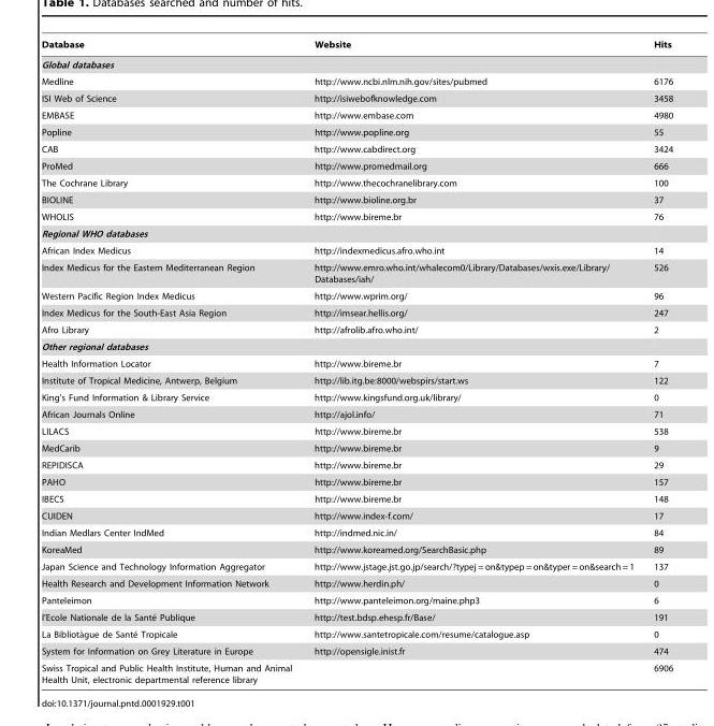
<table><thead><tr><td>Database</td><td>Website</td><td>Hits</td></tr></thead><tbody><tr><td colspan="3">Global databases</td></tr><tr><td>Medline</td><td>http://www.ncbi.nlm.nih.gov/sites/pubmed</td><td>6176</td></tr><tr><td>ISI Web of Science</td><td>http://isiwebofknowledge.com</td><td>3458</td></tr><tr><td>EMBASE</td><td>http://www.embase.com</td><td>4980</td></tr><tr><td>Popline</td><td>http://www.popline.org</td><td>55</td></tr><tr><td>CAB</td><td>http://www.cabdirect.org</td><td>3424</td></tr><tr><td>ProMed</td><td>http://www.promedmail.org</td><td>666</td></tr><tr><td>The Cochrane Library</td><td>http://www.thecochranelibrary.com</td><td>100</td></tr><tr><td>BIOLINE</td><td>http://www.bioline.org.br</td><td>37</td></tr><tr><td>WHOLIS</td><td>http://www.bireme.br</td><td>76</td></tr><tr><td colspan="3">Regional WHO databases</td></tr><tr><td>African Index Medicus</td><td>http://indexmedicus.afro.who.int</td><td>14</td></tr><tr><td>Index Medicus for the Eastern Mediterranean Region</td><td>http://www.emro.who.int/whalecom0/Library/Databases/wxis.exe/Library/ Databases/iah/</td><td>526</td></tr><tr><td>Western Pacific Region Index Medicus</td><td>http://www.wprim.org/</td><td>96</td></tr><tr><td>Index Medicus for the South-East Asia Region</td><td>http://imsear.hellis.org/</td><td>247</td></tr><tr><td>Afro Library</td><td>http://afrolib.afro.who.int/</td><td>2</td></tr><tr><td colspan="3">Other regional databases</td></tr><tr><td>Health Information Locator</td><td>http://www.bireme.br</td><td>7</td></tr><tr><td>Institute of Tropical Medicine, Antwerp, Belgium</td><td>http://lib.itg.be:8000/webspirs/start.ws</td><td>122</td></tr><tr><td>King’s Fund Information &amp; Library Service</td><td>http://www.kingsfund.org.uk/library/</td><td>0</td></tr><tr><td>African Journals Online</td><td>http://ajol.info/</td><td>71</td></tr><tr><td>LILACS</td><td>http://www.bireme.br</td><td>538</td></tr><tr><td>MedCarib</td><td>http://www.bireme.br</td><td>9</td></tr><tr><td>REPIDISCA</td><td>http://www.bireme.br</td><td>29</td></tr><tr><td>PAHO</td><td>http://www.bireme.br</td><td>157</td></tr><tr><td>IBECS</td><td>http://www.bireme.br</td><td>148</td></tr><tr><td>CUIDEN</td><td>http://www.index-f.com/</td><td>17</td></tr><tr><td>Indian Medlars Center IndMed</td><td>http://indmed.nic.in/</td><td>84</td></tr><tr><td>KoreaMed</td><td>http://www.koreamed.org/SearchBasic.php</td><td>89</td></tr><tr><td>Japan Science and Technology Information Aggregator</td><td>http://www.jstage.jst.go.jp/search/?typej = on&amp;typep = on&amp;typer = on&amp;search = 1</td><td>137</td></tr><tr><td>Health Research and Development Information Network</td><td>http://www.herdin.ph/</td><td>0</td></tr><tr><td>Panteleimon</td><td>http://www.panteleimon.org/maine.php3</td><td>6</td></tr><tr><td>l’Ecole Nationale de la Sante´ Publique</td><td>http://test.bdsp.ehesp.fr/Base/</td><td>191</td></tr><tr><td>La Bibliota`gue de Sante´ Tropicale</td><td>http://www.santetropicale.com/resume/catalogue.asp</td><td>0</td></tr><tr><td>System for Information on Grey Literature in Europe</td><td>http://opensigle.inist.fr</td><td>474</td></tr><tr><td>Swiss Tropical and Public Health Institute, Human and Animal Health Unit, electronic departmental reference library</td><td></td><td>6906</td></tr></tbody></table>